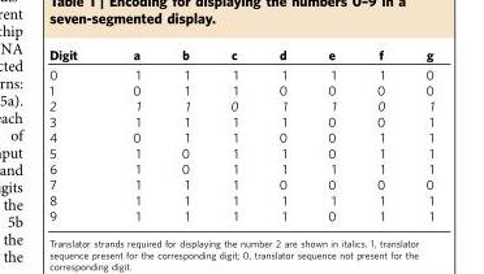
<table><thead><tr><td>Digit</td><td>a</td><td>b</td><td>c</td><td>d</td><td>e</td><td>f</td><td>g</td></tr></thead><tbody><tr><td>0</td><td>1</td><td>1</td><td>1</td><td>1</td><td>1</td><td>1</td><td>0</td></tr><tr><td>1</td><td>0</td><td>1</td><td>1</td><td>0</td><td>0</td><td>0</td><td>0</td></tr><tr><td>2</td><td>1</td><td>1</td><td>0</td><td>1</td><td>1</td><td>0</td><td>1</td></tr><tr><td>3</td><td>1</td><td>1</td><td>1</td><td>1</td><td>0</td><td>0</td><td>1</td></tr><tr><td>4</td><td>0</td><td>1</td><td>1</td><td>0</td><td>0</td><td>1</td><td>1</td></tr><tr><td>5</td><td>1</td><td>0</td><td>1</td><td>1</td><td>0</td><td>1</td><td>1</td></tr><tr><td>6</td><td>1</td><td>0</td><td>1</td><td>1</td><td>1</td><td>1</td><td>1</td></tr><tr><td>7</td><td>1</td><td>1</td><td>1</td><td>0</td><td>0</td><td>0</td><td>0</td></tr><tr><td>8</td><td>1</td><td>1</td><td>1</td><td>1</td><td>1</td><td>1</td><td>1</td></tr><tr><td>9</td><td>1</td><td>1</td><td>1</td><td>1</td><td>0</td><td>1</td><td>1</td></tr></tbody></table>